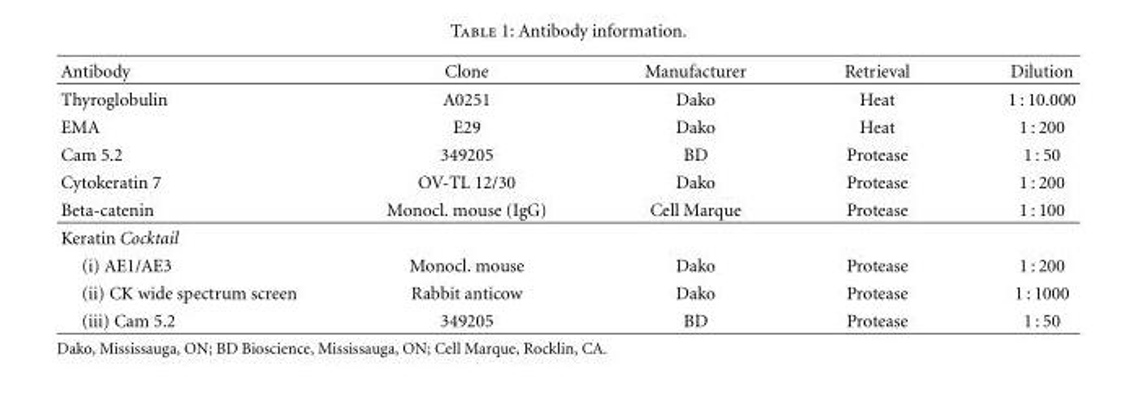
<table><thead><tr><td>Antibody</td><td>Clone</td><td>Manufacturer</td><td>Retrieval</td><td>Dilution</td></tr></thead><tbody><tr><td>Thyroglobulin</td><td>A0251</td><td>Dako</td><td>Heat</td><td>1 : 10.000</td></tr><tr><td>EMA</td><td>E29</td><td>Dako</td><td>Heat</td><td>1 : 200</td></tr><tr><td>Cam 5.2</td><td>349205</td><td>BD</td><td>Protease</td><td>1 : 50</td></tr><tr><td>Cytokeratin 7</td><td>OV-TL 12/30</td><td>Dako</td><td>Protease</td><td>1 : 200</td></tr><tr><td>Beta-catenin</td><td>Monocl. mouse (IgG)</td><td>Cell Marque</td><td>Protease</td><td>1 : 100</td></tr><tr><td colspan="5">Keratin Cocktail</td></tr><tr><td>(i) AE1/AE3</td><td>Monocl. mouse</td><td>Dako</td><td>Protease</td><td>1 : 200</td></tr><tr><td>(ii) CK wide spectrum screen</td><td>Rabbit anticow</td><td>Dako</td><td>Protease</td><td>1 : 1000</td></tr><tr><td>(iii) Cam 5.2</td><td>349205</td><td>BD</td><td>Protease</td><td>1 : 50</td></tr></tbody></table>